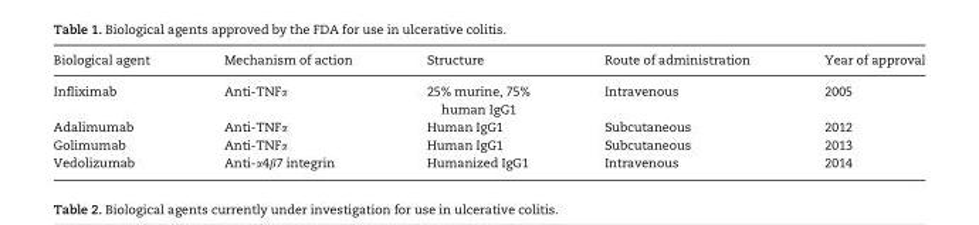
<table><thead><tr><td>Biological agent</td><td>Mechanism of action</td><td>Structure</td><td>Route of administration</td><td>Year of approval</td></tr></thead><tbody><tr><td>Infliximab</td><td>Anti-TNFα</td><td>25% murine, 75% human IgG1</td><td>Intravenous</td><td>2005</td></tr><tr><td>Adalimumab</td><td>Anti-TNFα</td><td>Human IgG1</td><td>Subcutaneous</td><td>2012</td></tr><tr><td>Golimumab</td><td>Anti-TNFα</td><td>Human IgG1</td><td>Subcutaneous</td><td>2013</td></tr><tr><td>Vedolizumab</td><td>Anti-α4β7 integrin</td><td>Humanized IgG1</td><td>Intravenous</td><td>2014</td></tr></tbody></table>